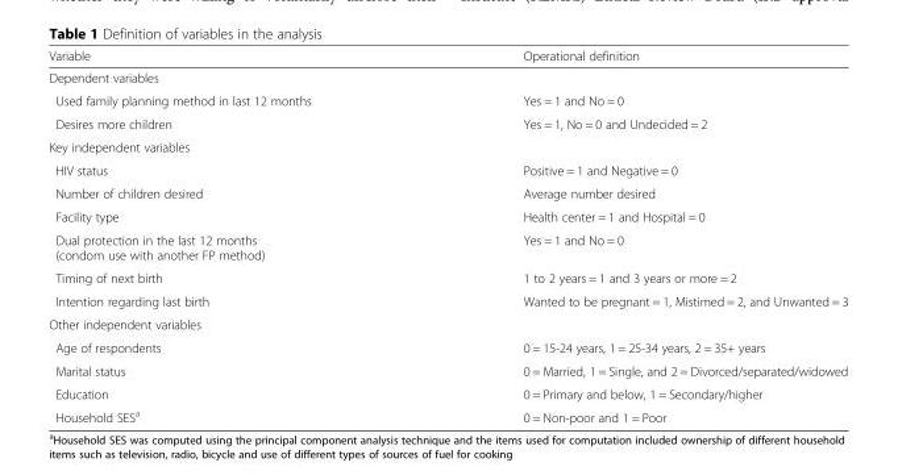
<table><thead><tr><td>Variable</td><td>Operational definition</td></tr></thead><tbody><tr><td colspan="2">Dependent variables</td></tr><tr><td>Used family planning method in last 12 months</td><td>Yes = 1 and No = 0</td></tr><tr><td>Desires more children</td><td>Yes = 1, No = 0 and Undecided = 2</td></tr><tr><td colspan="2">Key independent variables</td></tr><tr><td>HIV status</td><td>Positive = 1 and Negative = 0</td></tr><tr><td>Number of children desired</td><td>Average number desired</td></tr><tr><td>Facility type</td><td>Health center = 1 and Hospital = 0</td></tr><tr><td>Dual protection in the last 12 months (condom use with another FP method)</td><td>Yes = 1 and No = 0</td></tr><tr><td>Timing of next birth</td><td>1 to 2 years = 1 and 3 years or more = 2</td></tr><tr><td>Intention regarding last birth</td><td>Wanted to be pregnant = 1, Mistimed = 2, and Unwanted = 3</td></tr><tr><td colspan="2">Other independent variables</td></tr><tr><td>Age of respondents</td><td>0 = 15-24 years, 1 = 25-34 years, 2 = 35+ years</td></tr><tr><td>Marital status</td><td>0 = Married, 1 = Single, and 2 = Divorced/separated/widowed</td></tr><tr><td>Education</td><td>0 = Primary and below, 1 = Secondary/higher</td></tr><tr><td>Household SES<sup>a</sup></td><td>0 = Non-poor and 1 = Poor</td></tr></tbody></table>